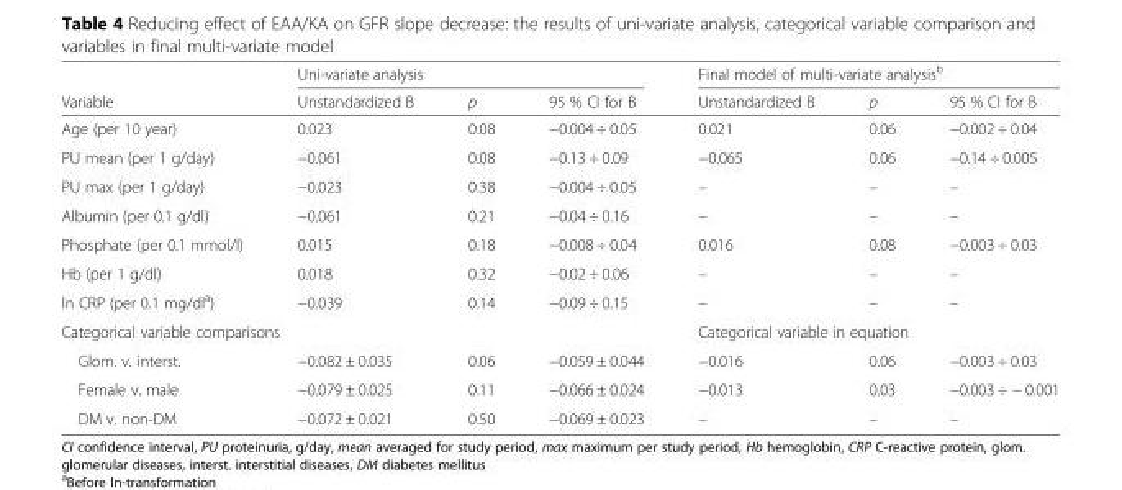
<table><thead><tr><td rowspan="2">Variable</td><td colspan="3">Uni-variate analysis</td><td colspan="3">Final model of multi-variate analysis<sup>b</sup></td></tr><tr><td>Unstandardized B</td><td>p</td><td>95 % CI for B</td><td>Unstandardized B</td><td>p</td><td>95 % CI for B</td></tr></thead><tbody><tr><td>Age (per 10 year)</td><td>0.023</td><td>0.08</td><td>−0.004 ÷ 0.05</td><td>0.021</td><td>0.06</td><td>−0.002 ÷ 0.04</td></tr><tr><td>PU mean (per 1 g/day)</td><td>−0.061</td><td>0.08</td><td>−0.13 ÷ 0.09</td><td>−0.065</td><td>0.06</td><td>−0.14 ÷ 0.005</td></tr><tr><td>PU max (per 1 g/day)</td><td>−0.023</td><td>0.38</td><td>−0.004 ÷ 0.05</td><td>–</td><td>–</td><td>–</td></tr><tr><td>Albumin (per 0.1 g/dl)</td><td>−0.061</td><td>0.21</td><td>−0.04 ÷ 0.16</td><td>–</td><td>–</td><td>–</td></tr><tr><td>Phosphate (per 0.1 mmol/l)</td><td>0.015</td><td>0.18</td><td>−0.008 ÷ 0.04</td><td>0.016</td><td>0.08</td><td>−0.003 ÷ 0.03</td></tr><tr><td>Hb (per 1 g/dl)</td><td>0.018</td><td>0.32</td><td>−0.02 ÷ 0.06</td><td>–</td><td>–</td><td>–</td></tr><tr><td>ln CRP (per 0.1 mg/dl<sup>a</sup>)</td><td>−0.039</td><td>0.14</td><td>−0.09 ÷ 0.15</td><td>–</td><td>–</td><td>–</td></tr><tr><td colspan="4">Categorical variable comparisons</td><td colspan="3">Categorical variable in equation</td></tr><tr><td>Glom. v. interst.</td><td>−0.082 ± 0.035</td><td>0.06</td><td>−0.059 ± 0.044</td><td>−0.016</td><td>0.06</td><td>−0.003 ÷ 0.03</td></tr><tr><td>Female v. male</td><td>−0.079 ± 0.025</td><td>0.11</td><td>−0.066 ± 0.024</td><td>−0.013</td><td>0.03</td><td>−0.003 ÷ − 0.001</td></tr><tr><td>DM v. non-DM</td><td>−0.072 ± 0.021</td><td>0.50</td><td>−0.069 ± 0.023</td><td>–</td><td>–</td><td>–</td></tr></tbody></table>